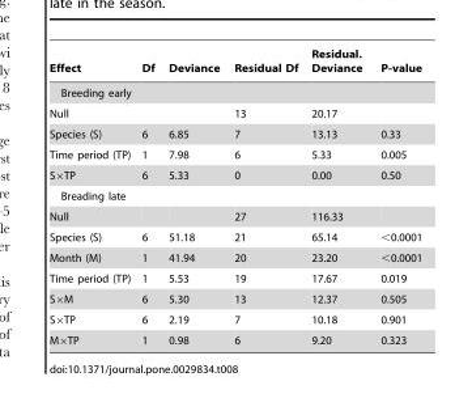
<table><thead><tr><td>Effect</td><td>Df</td><td>Deviance</td><td>Residual Df</td><td>Residual. Deviance</td><td>P-value</td></tr></thead><tbody><tr><td colspan="6">Breeding early</td></tr><tr><td>Null</td><td></td><td></td><td>13</td><td>20.17</td><td></td></tr><tr><td>Species (S)</td><td>6</td><td>6.85</td><td>7</td><td>13.13</td><td>0.33</td></tr><tr><td>Time period (TP)</td><td>1</td><td>7.98</td><td>6</td><td>5.33</td><td>0.005</td></tr><tr><td>S×TP</td><td>6</td><td>5.33</td><td>0</td><td>0.00</td><td>0.50</td></tr><tr><td colspan="6">Breading late</td></tr><tr><td>Null</td><td></td><td></td><td>27</td><td>116.33</td><td></td></tr><tr><td>Species (S)</td><td>6</td><td>51.18</td><td>21</td><td>65.14</td><td>&lt;0.0001</td></tr><tr><td>Month (M)</td><td>1</td><td>41.94</td><td>20</td><td>23.20</td><td>&lt;0.0001</td></tr><tr><td>Time period (TP)</td><td>1</td><td>5.53</td><td>19</td><td>17.67</td><td>0.019</td></tr><tr><td>S×M</td><td>6</td><td>5.30</td><td>13</td><td>12.37</td><td>0.505</td></tr><tr><td>S×TP</td><td>6</td><td>2.19</td><td>7</td><td>10.18</td><td>0.901</td></tr><tr><td>M×TP</td><td>1</td><td>0.98</td><td>6</td><td>9.20</td><td>0.323</td></tr></tbody></table>